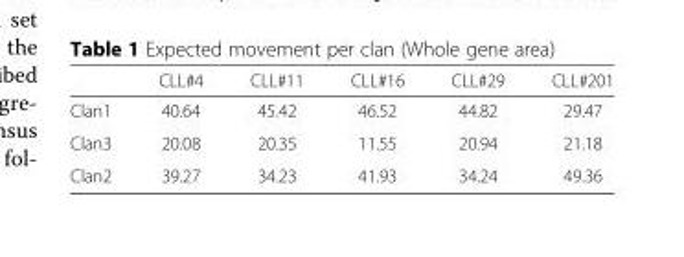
<table><thead><tr><td></td><td>CLL#4</td><td>CLL#11</td><td>CLL#16</td><td>CLL#29</td><td>CLL#201</td></tr></thead><tbody><tr><td>Clan1</td><td>40.64</td><td>45.42</td><td>46.52</td><td>44.82</td><td>29.47</td></tr><tr><td>Clan3</td><td>20.08</td><td>20.35</td><td>11.55</td><td>20.94</td><td>21.18</td></tr><tr><td>Clan2</td><td>39.27</td><td>34.23</td><td>41.93</td><td>34.24</td><td>49.36</td></tr></tbody></table>